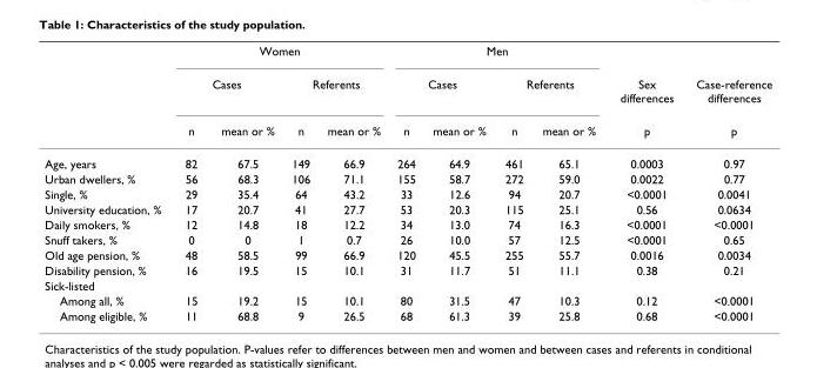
<table><thead><tr><td rowspan="3"></td><td colspan="4">Women</td><td colspan="4">Men</td><td rowspan="3">Sex differences p</td><td rowspan="3">Case-reference differences p</td></tr><tr><td colspan="2">Cases</td><td colspan="2">Referents</td><td colspan="2">Cases</td><td colspan="2">Referents</td></tr><tr><td>n</td><td>mean or %</td><td>n</td><td>mean or %</td><td>n</td><td>mean or %</td><td>n</td><td>mean or %</td></tr></thead><tbody><tr><td>Age, years</td><td>82</td><td>67.5</td><td>149</td><td>66.9</td><td>264</td><td>64.9</td><td>461</td><td>65.1</td><td>0.0003</td><td>0.97</td></tr><tr><td>Urban dwellers, %</td><td>56</td><td>68.3</td><td>106</td><td>71.1</td><td>155</td><td>58.7</td><td>272</td><td>59.0</td><td>0.0022</td><td>0.77</td></tr><tr><td>Single, %</td><td>29</td><td>35.4</td><td>64</td><td>43.2</td><td>33</td><td>12.6</td><td>94</td><td>20.7</td><td>&lt;0.0001</td><td>0.0041</td></tr><tr><td>University education, %</td><td>17</td><td>20.7</td><td>41</td><td>27.7</td><td>53</td><td>20.3</td><td>115</td><td>25.1</td><td>0.56</td><td>0.0634</td></tr><tr><td>Daily smokers, %</td><td>12</td><td>14.8</td><td>18</td><td>12.2</td><td>34</td><td>13.0</td><td>74</td><td>16.3</td><td>&lt;0.0001</td><td>&lt;0.0001</td></tr><tr><td>Snuff takers, %</td><td>0</td><td>0</td><td>1</td><td>0.7</td><td>26</td><td>10.0</td><td>57</td><td>12.5</td><td>&lt;0.0001</td><td>0.65</td></tr><tr><td>Old age pension, %</td><td>48</td><td>58.5</td><td>99</td><td>66.9</td><td>120</td><td>45.5</td><td>255</td><td>55.7</td><td>0.0016</td><td>0.0034</td></tr><tr><td>Disability pension, %</td><td>16</td><td>19.5</td><td>15</td><td>10.1</td><td>31</td><td>11.7</td><td>51</td><td>11.1</td><td>0.38</td><td>0.21</td></tr><tr><td colspan="11">Sick-listed</td></tr><tr><td>Among all, %</td><td>15</td><td>19.2</td><td>15</td><td>10.1</td><td>80</td><td>31.5</td><td>47</td><td>10.3</td><td>0.12</td><td>&lt;0.0001</td></tr><tr><td>Among eligible, %</td><td>11</td><td>68.8</td><td>9</td><td>26.5</td><td>68</td><td>61.3</td><td>39</td><td>25.8</td><td>0.68</td><td>&lt;0.0001</td></tr></tbody></table>